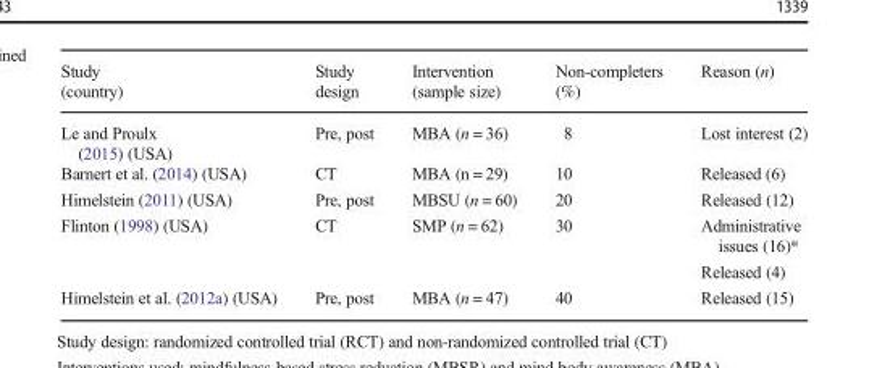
<table><thead><tr><td>Study (country)</td><td>Study design</td><td>Intervention (sample size)</td><td>Non-completers (%)</td><td>Reason (n)</td></tr></thead><tbody><tr><td>Le and Proulx (2015) (USA)</td><td>Pre, post</td><td>MBA (n = 36)</td><td>8</td><td>Lost interest (2)</td></tr><tr><td>Barnert et al. (2014) (USA)</td><td>CT</td><td>MBA (n = 29)</td><td>10</td><td>Released (6)</td></tr><tr><td>Himelstein (2011) (USA)</td><td>Pre, post</td><td>MBSU (n = 60)</td><td>20</td><td>Released (12)</td></tr><tr><td rowspan="2">Flinton (1998) (USA)</td><td rowspan="2">CT</td><td rowspan="2">SMP (n = 62)</td><td rowspan="2">30</td><td>Administrative issues (16)*</td></tr><tr><td>Released (4)</td></tr><tr><td>Himelstein et al. (2012a) (USA)</td><td>Pre, post</td><td>MBA (n = 47)</td><td>40</td><td>Released (15)</td></tr></tbody></table>